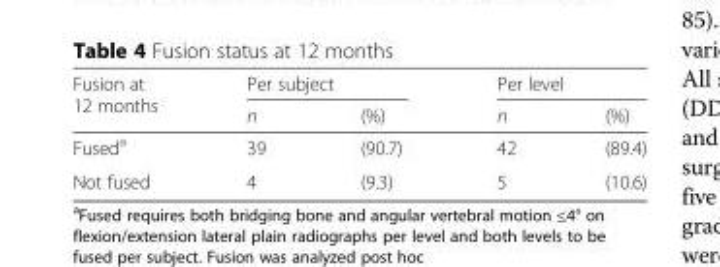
<table><thead><tr><td rowspan="2">Fusion at 12 months</td><td colspan="2">Per subject</td><td colspan="2">Per level</td></tr><tr><td>n</td><td>(%)</td><td>n</td><td>(%)</td></tr></thead><tbody><tr><td>Fused<sup>a</sup></td><td>39</td><td>(90.7)</td><td>42</td><td>(89.4)</td></tr><tr><td>Not fused</td><td>4</td><td>(9.3)</td><td>5</td><td>(10.6)</td></tr></tbody></table>